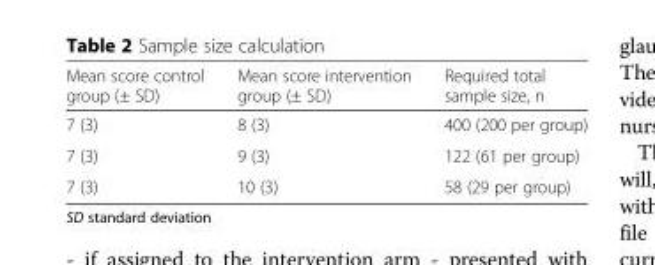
<table><thead><tr><td>Mean score control group (± SD)</td><td>Mean score intervention group (± SD)</td><td>Required total sample size, n</td></tr></thead><tbody><tr><td>7 (3)</td><td>8 (3)</td><td>400 (200 per group)</td></tr><tr><td>7 (3)</td><td>9 (3)</td><td>122 (61 per group)</td></tr><tr><td>7 (3)</td><td>10 (3)</td><td>58 (29 per group)</td></tr></tbody></table>